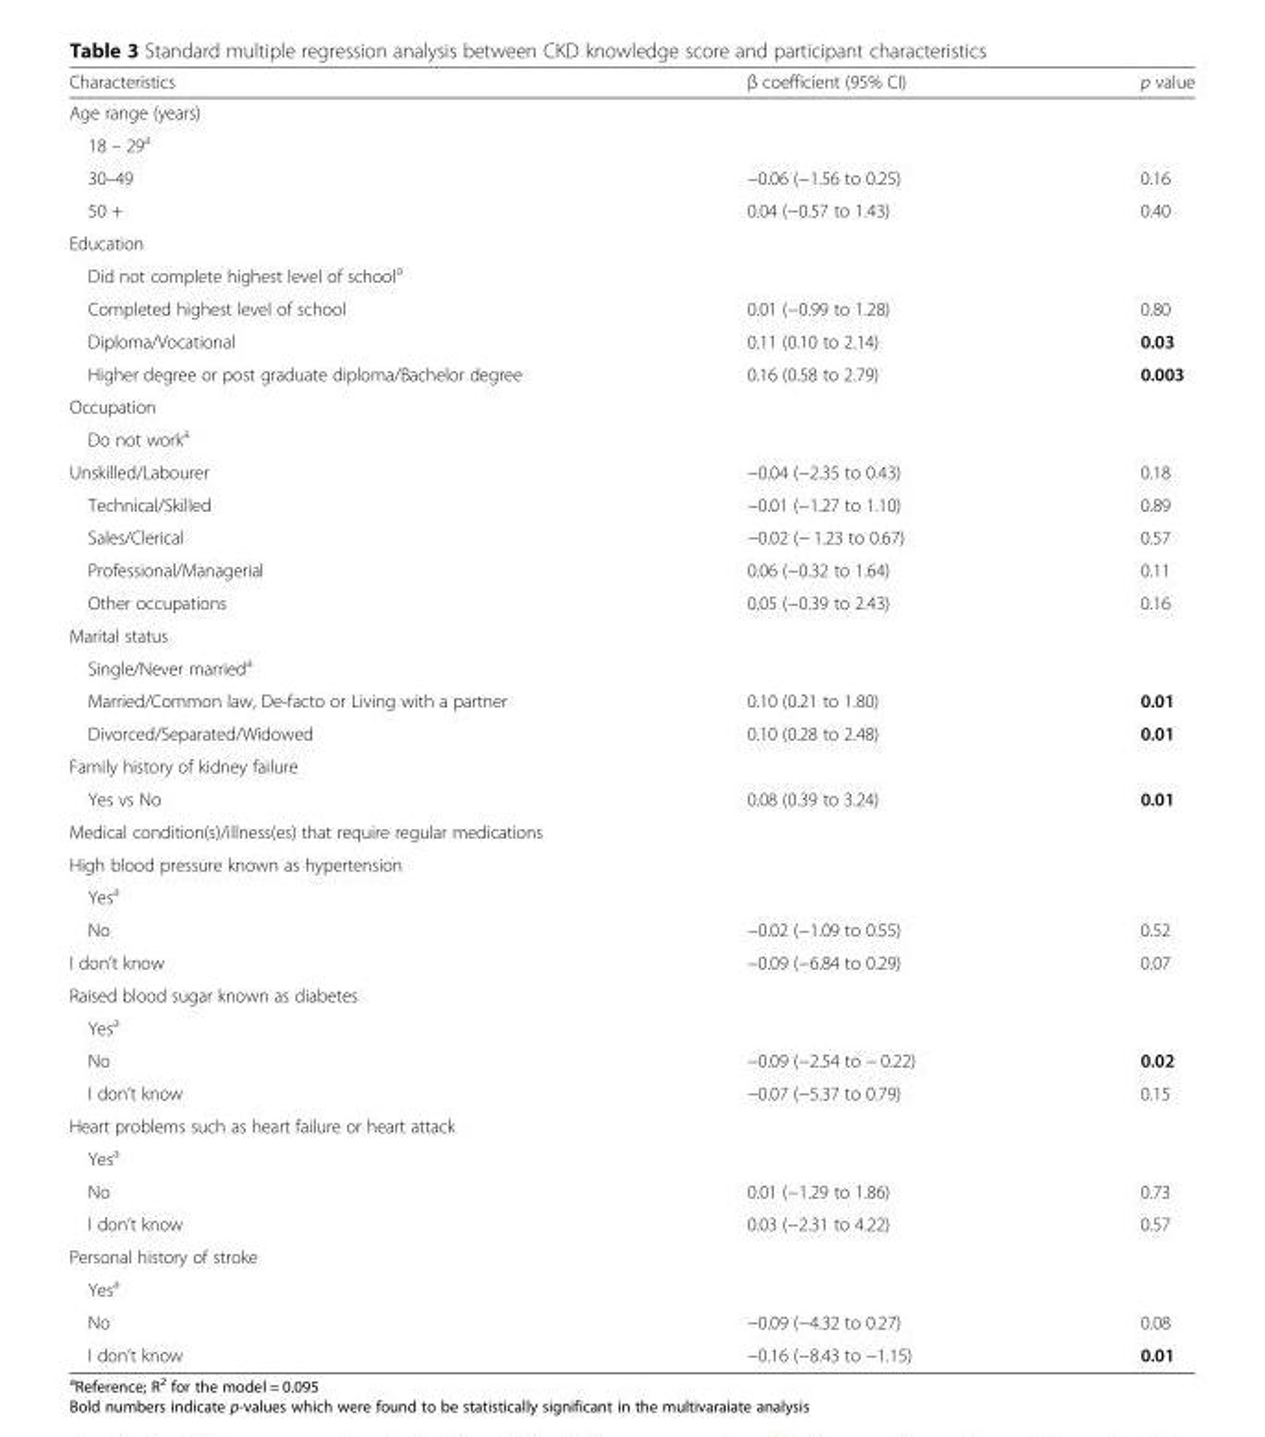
<table><thead><tr><td>Characteristics</td><td>β coefficient (95% CI)</td><td>p value</td></tr></thead><tbody><tr><td colspan="3">Age range (years)</td></tr><tr><td colspan="3">18 – 29<sup>a</sup></td></tr><tr><td>30–49</td><td>−0.06 (−1.56 to 0.25)</td><td>0.16</td></tr><tr><td>50 +</td><td>0.04 (−0.57 to 1.43)</td><td>0.40</td></tr><tr><td colspan="3">Education</td></tr><tr><td colspan="3">Did not complete highest level of school<sup>a</sup></td></tr><tr><td>Completed highest level of school</td><td>0.01 (−0.99 to 1.28)</td><td>0.80</td></tr><tr><td>Diploma/Vocational</td><td>0.11 (0.10 to 2.14)</td><td>0.03</td></tr><tr><td>Higher degree or post graduate diploma/Bachelor degree</td><td>0.16 (0.58 to 2.79)</td><td>0.003</td></tr><tr><td colspan="3">Occupation</td></tr><tr><td colspan="3">Do not work<sup>a</sup></td></tr><tr><td>Unskilled/Labourer</td><td>−0.04 (−2.35 to 0.43)</td><td>0.18</td></tr><tr><td>Technical/Skilled</td><td>−0.01 (−1.27 to 1.10)</td><td>0.89</td></tr><tr><td>Sales/Clerical</td><td>−0.02 (− 1.23 to 0.67)</td><td>0.57</td></tr><tr><td>Professional/Managerial</td><td>0.06 (−0.32 to 1.64)</td><td>0.11</td></tr><tr><td>Other occupations</td><td>0.05 (−0.39 to 2.43)</td><td>0.16</td></tr><tr><td colspan="3">Marital status</td></tr><tr><td colspan="3">Single/Never married<sup>a</sup></td></tr><tr><td>Married/Common law, De-facto or Living with a partner</td><td>0.10 (0.21 to 1.80)</td><td>0.01</td></tr><tr><td>Divorced/Separated/Widowed</td><td>0.10 (0.28 to 2.48)</td><td>0.01</td></tr><tr><td colspan="3">Family history of kidney failure</td></tr><tr><td>Yes vs No</td><td>0.08 (0.39 to 3.24)</td><td>0.01</td></tr><tr><td colspan="3">Medical condition(s)/illness(es) that require regular medications</td></tr><tr><td colspan="3">High blood pressure known as hypertension</td></tr><tr><td colspan="3">Yes<sup>a</sup></td></tr><tr><td>No</td><td>−0.02 (−1.09 to 0.55)</td><td>0.52</td></tr><tr><td>I don’t know</td><td>−0.09 (−6.84 to 0.29)</td><td>0.07</td></tr><tr><td colspan="3">Raised blood sugar known as diabetes</td></tr><tr><td colspan="3">Yes<sup>a</sup></td></tr><tr><td>No</td><td>−0.09 (−2.54 to − 0.22)</td><td>0.02</td></tr><tr><td>I don’t know</td><td>−0.07 (−5.37 to 0.79)</td><td>0.15</td></tr><tr><td colspan="3">Heart problems such as heart failure or heart attack</td></tr><tr><td colspan="3">Yes<sup>a</sup></td></tr><tr><td>No</td><td>0.01 (−1.29 to 1.86)</td><td>0.73</td></tr><tr><td>I don’t know</td><td>0.03 (−2.31 to 4.22)</td><td>0.57</td></tr><tr><td colspan="3">Personal history of stroke</td></tr><tr><td colspan="3">Yes<sup>a</sup></td></tr><tr><td>No</td><td>−0.09 (−4.32 to 0.27)</td><td>0.08</td></tr><tr><td>I don’t know</td><td>−0.16 (−8.43 to −1.15)</td><td>0.01</td></tr></tbody></table>